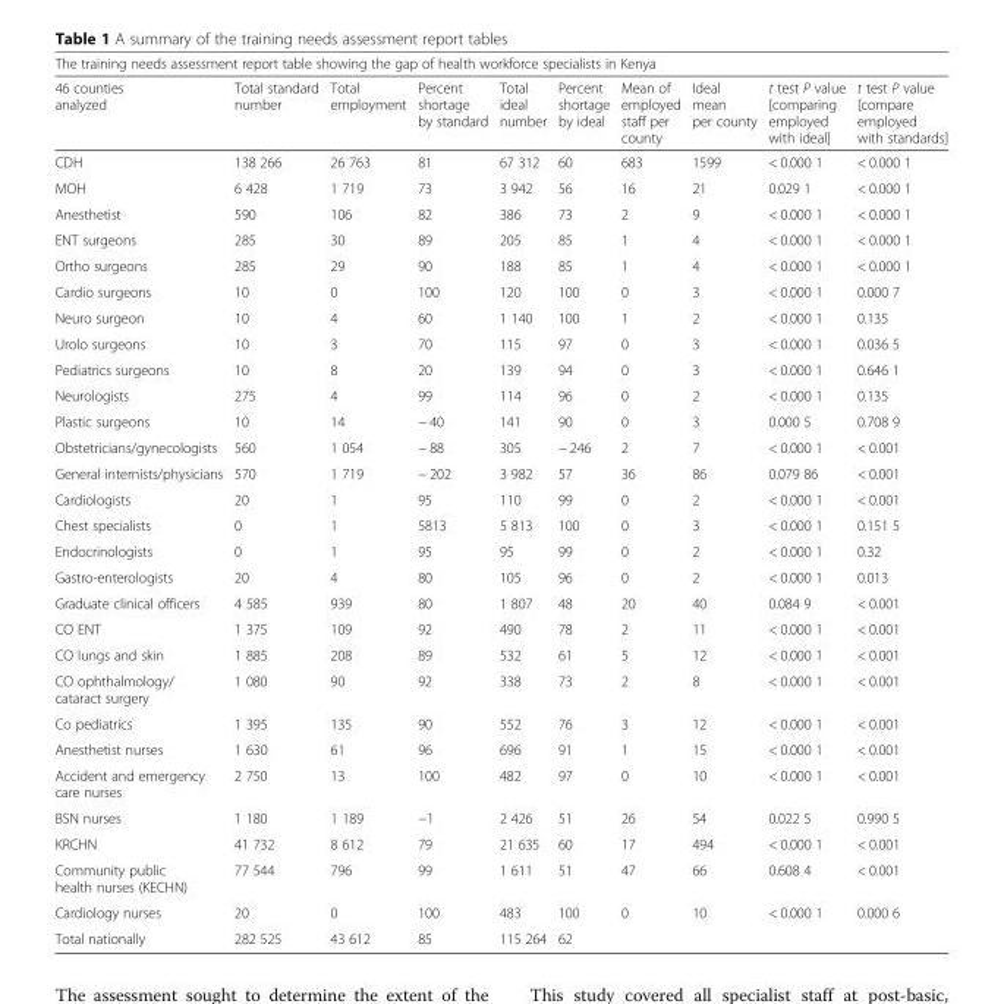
<table><thead><tr><td colspan="10">The training needs assessment report table showing the gap of health workforce specialists in Kenya</td></tr><tr><td>46 counties analyzed</td><td>Total standard number</td><td>Total employment</td><td>Percent shortage by standard</td><td>Total ideal number</td><td>Percent shortage by ideal</td><td>Mean of employed staff per county</td><td>Ideal mean per county</td><td>t test P value [comparing employed with ideal]</td><td>t test P value [compare employed with standards]</td></tr></thead><tbody><tr><td>CDH</td><td>138 266</td><td>26 763</td><td>81</td><td>67 312</td><td>60</td><td>683</td><td>1599</td><td>&lt; 0.000 1</td><td>&lt; 0.000 1</td></tr><tr><td>MOH</td><td>6 428</td><td>1 719</td><td>73</td><td>3 942</td><td>56</td><td>16</td><td>21</td><td>0.029 1</td><td>&lt; 0.000 1</td></tr><tr><td>Anesthetist</td><td>590</td><td>106</td><td>82</td><td>386</td><td>73</td><td>2</td><td>9</td><td>&lt; 0.000 1</td><td>&lt; 0.000 1</td></tr><tr><td>ENT surgeons</td><td>285</td><td>30</td><td>89</td><td>205</td><td>85</td><td>1</td><td>4</td><td>&lt; 0.000 1</td><td>&lt; 0.000 1</td></tr><tr><td>Ortho surgeons</td><td>285</td><td>29</td><td>90</td><td>188</td><td>85</td><td>1</td><td>4</td><td>&lt; 0.000 1</td><td>&lt; 0.000 1</td></tr><tr><td>Cardio surgeons</td><td>10</td><td>0</td><td>100</td><td>120</td><td>100</td><td>0</td><td>3</td><td>&lt; 0.000 1</td><td>0.000 7</td></tr><tr><td>Neuro surgeon</td><td>10</td><td>4</td><td>60</td><td>1 140</td><td>100</td><td>1</td><td>2</td><td>&lt; 0.000 1</td><td>0.135</td></tr><tr><td>Urolo surgeons</td><td>10</td><td>3</td><td>70</td><td>115</td><td>97</td><td>0</td><td>3</td><td>&lt; 0.000 1</td><td>0.036 5</td></tr><tr><td>Pediatrics surgeons</td><td>10</td><td>8</td><td>20</td><td>139</td><td>94</td><td>0</td><td>3</td><td>&lt; 0.000 1</td><td>0.646 1</td></tr><tr><td>Neurologists</td><td>275</td><td>4</td><td>99</td><td>114</td><td>96</td><td>0</td><td>2</td><td>&lt; 0.000 1</td><td>0.135</td></tr><tr><td>Plastic surgeons</td><td>10</td><td>14</td><td>− 40</td><td>141</td><td>90</td><td>0</td><td>3</td><td>0.000 5</td><td>0.708 9</td></tr><tr><td>Obstetricians/gynecologists</td><td>560</td><td>1 054</td><td>− 88</td><td>305</td><td>− 246</td><td>2</td><td>7</td><td>&lt; 0.000 1</td><td>&lt; 0.001</td></tr><tr><td>General internists/physicians</td><td>570</td><td>1 719</td><td>− 202</td><td>3 982</td><td>57</td><td>36</td><td>86</td><td>0.079 86</td><td>&lt; 0.001</td></tr><tr><td>Cardiologists</td><td>20</td><td>1</td><td>95</td><td>110</td><td>99</td><td>0</td><td>2</td><td>&lt; 0.000 1</td><td>&lt; 0.001</td></tr><tr><td>Chest specialists</td><td>0</td><td>1</td><td>5813</td><td>5 813</td><td>100</td><td>0</td><td>3</td><td>&lt; 0.000 1</td><td>0.151 5</td></tr><tr><td>Endocrinologists</td><td>0</td><td>1</td><td>95</td><td>95</td><td>99</td><td>0</td><td>2</td><td>&lt; 0.000 1</td><td>0.32</td></tr><tr><td>Gastro-enterologists</td><td>20</td><td>4</td><td>80</td><td>105</td><td>96</td><td>0</td><td>2</td><td>&lt; 0.000 1</td><td>0.013</td></tr><tr><td>Graduate clinical officers</td><td>4 585</td><td>939</td><td>80</td><td>1 807</td><td>48</td><td>20</td><td>40</td><td>0.084 9</td><td>&lt; 0.001</td></tr><tr><td>CO ENT</td><td>1 375</td><td>109</td><td>92</td><td>490</td><td>78</td><td>2</td><td>11</td><td>&lt; 0.000 1</td><td>&lt; 0.001</td></tr><tr><td>CO lungs and skin</td><td>1 885</td><td>208</td><td>89</td><td>532</td><td>61</td><td>5</td><td>12</td><td>&lt; 0.000 1</td><td>&lt; 0.001</td></tr><tr><td>CO ophthalmology/ cataract surgery</td><td>1 080</td><td>90</td><td>92</td><td>338</td><td>73</td><td>2</td><td>8</td><td>&lt; 0.000 1</td><td>&lt; 0.001</td></tr><tr><td>Co pediatrics</td><td>1 395</td><td>135</td><td>90</td><td>552</td><td>76</td><td>3</td><td>12</td><td>&lt; 0.000 1</td><td>&lt; 0.001</td></tr><tr><td>Anesthetist nurses</td><td>1 630</td><td>61</td><td>96</td><td>696</td><td>91</td><td>1</td><td>15</td><td>&lt; 0.000 1</td><td>&lt; 0.001</td></tr><tr><td>Accident and emergency care nurses</td><td>2 750</td><td>13</td><td>100</td><td>482</td><td>97</td><td>0</td><td>10</td><td>&lt; 0.000 1</td><td>&lt; 0.001</td></tr><tr><td>BSN nurses</td><td>1 180</td><td>1 189</td><td>−1</td><td>2 426</td><td>51</td><td>26</td><td>54</td><td>0.022 5</td><td>0.990 5</td></tr><tr><td>KRCHN</td><td>41 732</td><td>8 612</td><td>79</td><td>21 635</td><td>60</td><td>17</td><td>494</td><td>&lt; 0.000 1</td><td>&lt; 0.001</td></tr><tr><td>Community public health nurses (KECHN)</td><td>77 544</td><td>796</td><td>99</td><td>1 611</td><td>51</td><td>47</td><td>66</td><td>0.608 4</td><td>&lt; 0.001</td></tr><tr><td>Cardiology nurses</td><td>20</td><td>0</td><td>100</td><td>483</td><td>100</td><td>0</td><td>10</td><td>&lt; 0.000 1</td><td>0.000 6</td></tr><tr><td>Total nationally</td><td>282 525</td><td>43 612</td><td>85</td><td>115 264</td><td>62</td><td></td><td></td><td></td><td></td></tr></tbody></table>